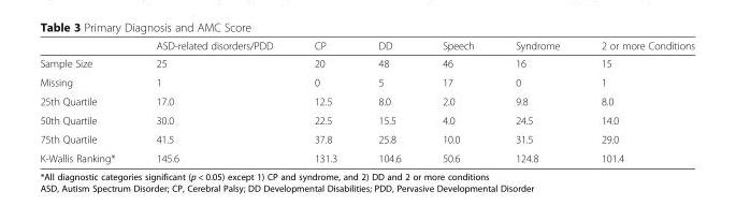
<table><thead><tr><td></td><td>ASD-related disorders/PDD</td><td>CP</td><td>DD</td><td>Speech</td><td>Syndrome</td><td>2 or more Conditions</td></tr></thead><tbody><tr><td>Sample Size</td><td>25</td><td>20</td><td>48</td><td>46</td><td>16</td><td>15</td></tr><tr><td>Missing</td><td>1</td><td>0</td><td>5</td><td>17</td><td>0</td><td>1</td></tr><tr><td>25th Quartile</td><td>17.0</td><td>12.5</td><td>8.0</td><td>2.0</td><td>9.8</td><td>8.0</td></tr><tr><td>50th Quartile</td><td>30.0</td><td>22.5</td><td>15.5</td><td>4.0</td><td>24.5</td><td>14.0</td></tr><tr><td>75th Quartile</td><td>41.5</td><td>37.8</td><td>25.8</td><td>10.0</td><td>31.5</td><td>29.0</td></tr><tr><td>K-Wallis Ranking*</td><td>145.6</td><td>131.3</td><td>104.6</td><td>50.6</td><td>124.8</td><td>101.4</td></tr></tbody></table>